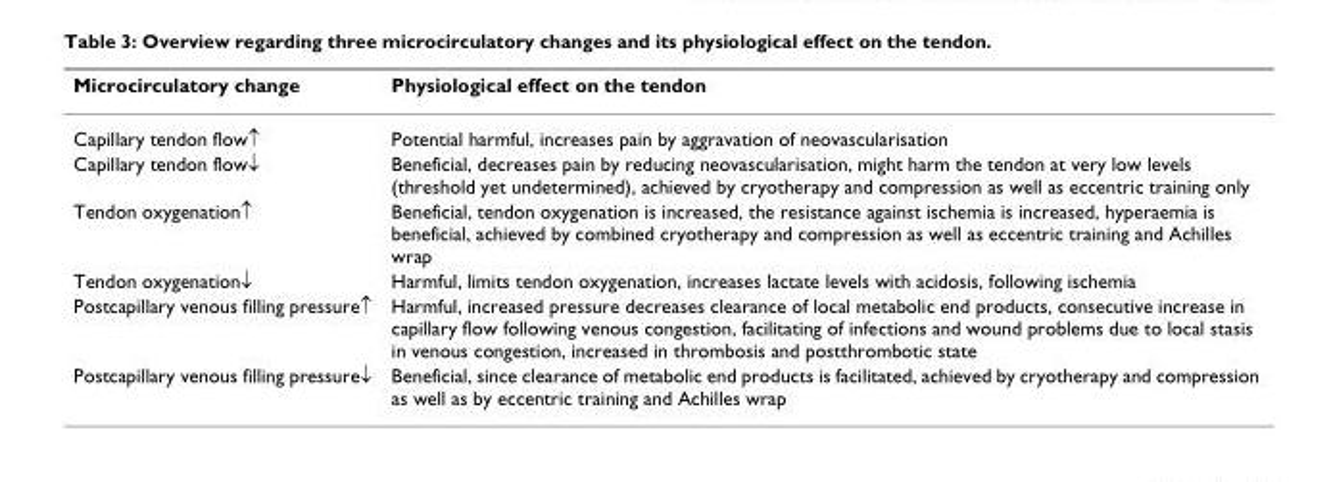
<table><thead><tr><td>Microcirculatory change</td><td>Physiological effect on the tendon</td></tr></thead><tbody><tr><td>Capillary tendon flow↑</td><td>Potential harmful, increases pain by aggravation of neovascularisation</td></tr><tr><td>Capillary tendon flow↓</td><td>Beneficial, decreases pain by reducing neovascularisation, might harm the tendon at very low levels (threshold yet undetermined), achieved by cryotherapy and compression as well as eccentric training only</td></tr><tr><td>Tendon oxygenation↑</td><td>Beneficial, tendon oxygenation is increased, the resistance against ischemia is increased, hyperaemia is beneficial, achieved by combined cryotherapy and compression as well as eccentric training and Achilles wrap</td></tr><tr><td>Tendon oxygenation↓</td><td>Harmful, limits tendon oxygenation, increases lactate levels with acidosis, following ischemia</td></tr><tr><td>Postcapillary venous filling pressure↑</td><td>Harmful, increased pressure decreases clearance of local metabolic end products, consecutive increase in capillary flow following venous congestion, facilitating of infections and wound problems due to local stasis in venous congestion, increased in thrombosis and postthrombotic state</td></tr><tr><td>Postcapillary venous filling pressure↓</td><td>Beneficial, since clearance of metabolic end products is facilitated, achieved by cryotherapy and compression as well as by eccentric training and Achilles wrap</td></tr></tbody></table>